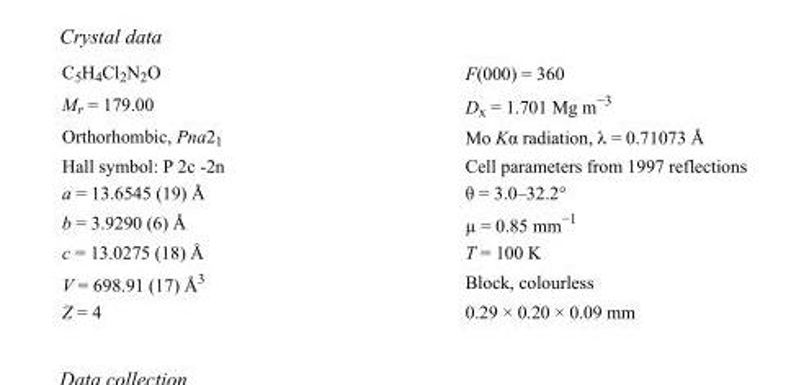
<table><tbody><tr><td>C<sub>5</sub>H<sub>4</sub>Cl<sub>2</sub>N<sub>2</sub>O</td><td>F(000) = 360</td></tr><tr><td>M<sub>r</sub> = 179.00</td><td>D<sub>x</sub> = 1.701 Mg m<sup>−3</sup></td></tr><tr><td>Orthorhombic, Pna2<sub>1</sub></td><td>Mo Kα radiation, λ = 0.71073 Å</td></tr><tr><td>Hall symbol: P 2c -2n</td><td>Cell parameters from 1997 reflections</td></tr><tr><td>a = 13.6545 (19) Å</td><td>θ = 3.0–32.2°</td></tr><tr><td>b = 3.9290 (6) Å</td><td>µ = 0.85 mm<sup>−1</sup></td></tr><tr><td>c = 13.0275 (18) Å</td><td>T = 100 K</td></tr><tr><td>V = 698.91 (17) Å<sup>3</sup></td><td>Block, colourless</td></tr><tr><td>Z = 4</td><td>0.29 × 0.20 × 0.09 mm</td></tr></tbody></table>